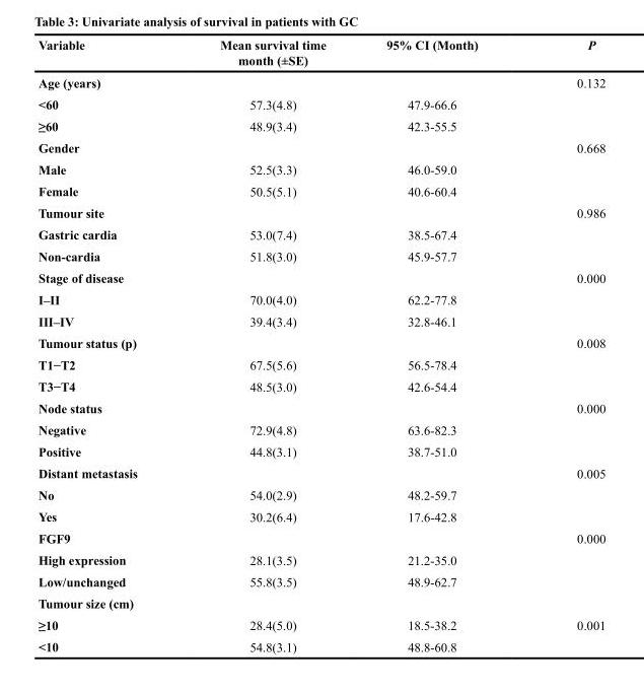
<table><thead><tr><td>Variable</td><td>Mean survival time month (±SE)</td><td>95% CI (Month)</td><td>P</td></tr></thead><tbody><tr><td>Age (years)</td><td></td><td></td><td>0.132</td></tr><tr><td>&lt;60</td><td>57.3(4.8)</td><td>47.9-66.6</td><td></td></tr><tr><td>≥60</td><td>48.9(3.4)</td><td>42.3-55.5</td><td></td></tr><tr><td>Gender</td><td></td><td></td><td>0.668</td></tr><tr><td>Male</td><td>52.5(3.3)</td><td>46.0-59.0</td><td></td></tr><tr><td>Female</td><td>50.5(5.1)</td><td>40.6-60.4</td><td></td></tr><tr><td>Tumour site</td><td></td><td></td><td>0.986</td></tr><tr><td>Gastric cardia</td><td>53.0(7.4)</td><td>38.5-67.4</td><td></td></tr><tr><td>Non-cardia</td><td>51.8(3.0)</td><td>45.9-57.7</td><td></td></tr><tr><td>Stage of disease</td><td></td><td></td><td>0.000</td></tr><tr><td>I–II</td><td>70.0(4.0)</td><td>62.2-77.8</td><td></td></tr><tr><td>III–IV</td><td>39.4(3.4)</td><td>32.8-46.1</td><td></td></tr><tr><td>Tumour status (p)</td><td></td><td></td><td>0.008</td></tr><tr><td>T1−T2</td><td>67.5(5.6)</td><td>56.5-78.4</td><td></td></tr><tr><td>T3−T4</td><td>48.5(3.0)</td><td>42.6-54.4</td><td></td></tr><tr><td>Node status</td><td></td><td></td><td>0.000</td></tr><tr><td>Negative</td><td>72.9(4.8)</td><td>63.6-82.3</td><td></td></tr><tr><td>Positive</td><td>44.8(3.1)</td><td>38.7-51.0</td><td></td></tr><tr><td>Distant metastasis</td><td></td><td></td><td>0.005</td></tr><tr><td>No</td><td>54.0(2.9)</td><td>48.2-59.7</td><td></td></tr><tr><td>Yes</td><td>30.2(6.4)</td><td>17.6-42.8</td><td></td></tr><tr><td>FGF9</td><td></td><td></td><td>0.000</td></tr><tr><td>High expression</td><td>28.1(3.5)</td><td>21.2-35.0</td><td></td></tr><tr><td>Low/unchanged</td><td>55.8(3.5)</td><td>48.9-62.7</td><td></td></tr><tr><td colspan="4">Tumour size (cm)</td></tr><tr><td>≥10</td><td>28.4(5.0)</td><td>18.5-38.2</td><td>0.001</td></tr><tr><td>&lt;10</td><td>54.8(3.1)</td><td>48.8-60.8</td><td></td></tr></tbody></table>